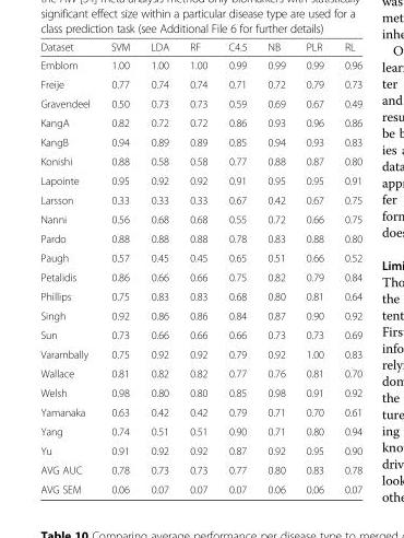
<table><thead><tr><td>Dataset</td><td>SVM</td><td>LDA</td><td>RF</td><td>C4.5</td><td>NB</td><td>PLR</td><td>RL</td></tr></thead><tbody><tr><td>Emblom</td><td>1.00</td><td>1.00</td><td>1.00</td><td>0.99</td><td>0.99</td><td>0.99</td><td>0.96</td></tr><tr><td>Freije</td><td>0.77</td><td>0.74</td><td>0.74</td><td>0.71</td><td>0.72</td><td>0.79</td><td>0.73</td></tr><tr><td>Gravendeel</td><td>0.50</td><td>0.73</td><td>0.73</td><td>0.59</td><td>0.69</td><td>0.67</td><td>0.49</td></tr><tr><td>KangA</td><td>0.82</td><td>0.72</td><td>0.72</td><td>0.86</td><td>0.93</td><td>0.96</td><td>0.86</td></tr><tr><td>KangB</td><td>0.94</td><td>0.89</td><td>0.89</td><td>0.85</td><td>0.94</td><td>0.93</td><td>0.83</td></tr><tr><td>Konishi</td><td>0.88</td><td>0.58</td><td>0.58</td><td>0.77</td><td>0.88</td><td>0.87</td><td>0.80</td></tr><tr><td>Lapointe</td><td>0.95</td><td>0.92</td><td>0.92</td><td>0.91</td><td>0.95</td><td>0.95</td><td>0.91</td></tr><tr><td>Larsson</td><td>0.33</td><td>0.33</td><td>0.33</td><td>0.67</td><td>0.42</td><td>0.67</td><td>0.75</td></tr><tr><td>Nanni</td><td>0.56</td><td>0.68</td><td>0.68</td><td>0.55</td><td>0.72</td><td>0.66</td><td>0.75</td></tr><tr><td>Pardo</td><td>0.88</td><td>0.88</td><td>0.88</td><td>0.78</td><td>0.83</td><td>0.88</td><td>0.80</td></tr><tr><td>Paugh</td><td>0.57</td><td>0.45</td><td>0.45</td><td>0.65</td><td>0.51</td><td>0.66</td><td>0.52</td></tr><tr><td>Petalidis</td><td>0.86</td><td>0.66</td><td>0.66</td><td>0.75</td><td>0.82</td><td>0.79</td><td>0.84</td></tr><tr><td>Phillips</td><td>0.75</td><td>0.83</td><td>0.83</td><td>0.68</td><td>0.80</td><td>0.81</td><td>0.64</td></tr><tr><td>Singh</td><td>0.92</td><td>0.86</td><td>0.86</td><td>0.84</td><td>0.87</td><td>0.90</td><td>0.92</td></tr><tr><td>Sun</td><td>0.73</td><td>0.66</td><td>0.66</td><td>0.66</td><td>0.73</td><td>0.73</td><td>0.69</td></tr><tr><td>Varambally</td><td>0.75</td><td>0.92</td><td>0.92</td><td>0.79</td><td>0.92</td><td>1.00</td><td>0.83</td></tr><tr><td>Wallace</td><td>0.81</td><td>0.82</td><td>0.82</td><td>0.77</td><td>0.76</td><td>0.81</td><td>0.70</td></tr><tr><td>Welsh</td><td>0.98</td><td>0.80</td><td>0.80</td><td>0.85</td><td>0.98</td><td>0.91</td><td>0.92</td></tr><tr><td>Yamanaka</td><td>0.63</td><td>0.42</td><td>0.42</td><td>0.79</td><td>0.71</td><td>0.70</td><td>0.61</td></tr><tr><td>Yang</td><td>0.74</td><td>0.51</td><td>0.51</td><td>0.90</td><td>0.71</td><td>0.80</td><td>0.94</td></tr><tr><td>Yu</td><td>0.91</td><td>0.92</td><td>0.92</td><td>0.87</td><td>0.92</td><td>0.95</td><td>0.90</td></tr><tr><td>AVG AUC</td><td>0.78</td><td>0.73</td><td>0.73</td><td>0.77</td><td>0.80</td><td>0.83</td><td>0.78</td></tr><tr><td>AVG SEM</td><td>0.06</td><td>0.07</td><td>0.07</td><td>0.07</td><td>0.06</td><td>0.06</td><td>0.07</td></tr></tbody></table>